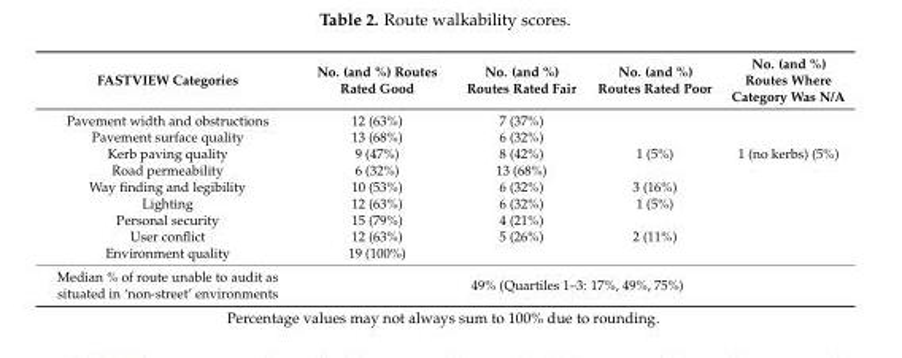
<table><thead><tr><td>FASTVIEW Categories</td><td>No. (and %) Routes Rated Good</td><td>No. (and %) Routes Rated Fair</td><td>No. (and %) Routes Rated Poor</td><td>No. (and %) Routes Where Category Was N/A</td></tr></thead><tbody><tr><td>Pavement width and obstructions</td><td>12 (63%)</td><td>7 (37%)</td><td></td><td></td></tr><tr><td>Pavement surface quality</td><td>13 (68%)</td><td>6 (32%)</td><td></td><td></td></tr><tr><td>Kerb paving quality</td><td>9 (47%)</td><td>8 (42%)</td><td>1 (5%)</td><td>1 (no kerbs) (5%)</td></tr><tr><td>Road permeability</td><td>6 (32%)</td><td>13 (68%)</td><td></td><td></td></tr><tr><td>Way finding and legibility</td><td>10 (53%)</td><td>6 (32%)</td><td>3 (16%)</td><td></td></tr><tr><td>Lighting</td><td>12 (63%)</td><td>6 (32%)</td><td>1 (5%)</td><td></td></tr><tr><td>Personal security</td><td>15 (79%)</td><td>4 (21%)</td><td></td><td></td></tr><tr><td>User conflict</td><td>12 (63%)</td><td>5 (26%)</td><td>2 (11%)</td><td></td></tr><tr><td>Environment quality</td><td>19 (100%)</td><td></td><td></td><td></td></tr><tr><td>Median % of route unable to audit as situated in ‘non-street’ environments</td><td colspan="4">49% (Quartiles 1–3: 17%, 49%, 75%)</td></tr></tbody></table>